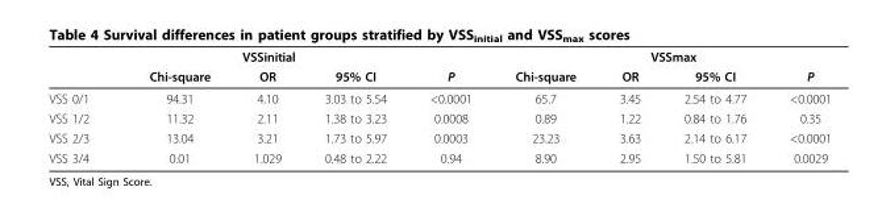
<table><thead><tr><td colspan="5">VSSinitial</td><td colspan="4">VSSmax</td></tr><tr><td></td><td>Chi-square</td><td>OR</td><td>95% CI</td><td>P</td><td>Chi-square</td><td>OR</td><td>95% CI</td><td>P</td></tr></thead><tbody><tr><td>VSS 0/1</td><td>94.31</td><td>4.10</td><td>3.03 to 5.54</td><td>&lt;0.0001</td><td>65.7</td><td>3.45</td><td>2.54 to 4.77</td><td>&lt;0.0001</td></tr><tr><td>VSS 1/2</td><td>11.32</td><td>2.11</td><td>1.38 to 3.23</td><td>0.0008</td><td>0.89</td><td>1.22</td><td>0.84 to 1.76</td><td>0.35</td></tr><tr><td>VSS 2/3</td><td>13.04</td><td>3.21</td><td>1.73 to 5.97</td><td>0.0003</td><td>23.23</td><td>3.63</td><td>2.14 to 6.17</td><td>&lt;0.0001</td></tr><tr><td>VSS 3/4</td><td>0.01</td><td>1.029</td><td>0.48 to 2.22</td><td>0.94</td><td>8.90</td><td>2.95</td><td>1.50 to 5.81</td><td>0.0029</td></tr></tbody></table>